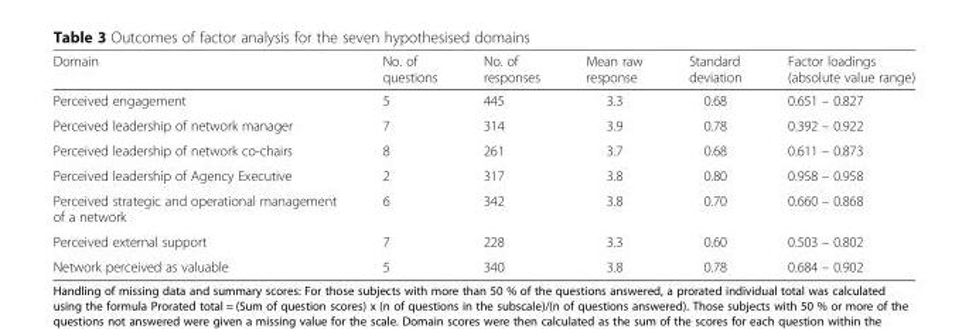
<table><thead><tr><td>Domain</td><td>No. of questions</td><td>No. of responses</td><td>Mean raw response</td><td>Standard deviation</td><td>Factor loadings (absolute value range)</td></tr></thead><tbody><tr><td>Perceived engagement</td><td>5</td><td>445</td><td>3.3</td><td>0.68</td><td>0.651 – 0.827</td></tr><tr><td>Perceived leadership of network manager</td><td>7</td><td>314</td><td>3.9</td><td>0.78</td><td>0.392 – 0.922</td></tr><tr><td>Perceived leadership of network co-chairs</td><td>8</td><td>261</td><td>3.7</td><td>0.68</td><td>0.611 – 0.873</td></tr><tr><td>Perceived leadership of Agency Executive</td><td>2</td><td>317</td><td>3.8</td><td>0.80</td><td>0.958 – 0.958</td></tr><tr><td>Perceived strategic and operational management of a network</td><td>6</td><td>342</td><td>3.8</td><td>0.70</td><td>0.660 – 0.868</td></tr><tr><td>Perceived external support</td><td>7</td><td>228</td><td>3.3</td><td>0.60</td><td>0.503 – 0.802</td></tr><tr><td>Network perceived as valuable</td><td>5</td><td>340</td><td>3.8</td><td>0.78</td><td>0.684 – 0.902</td></tr></tbody></table>